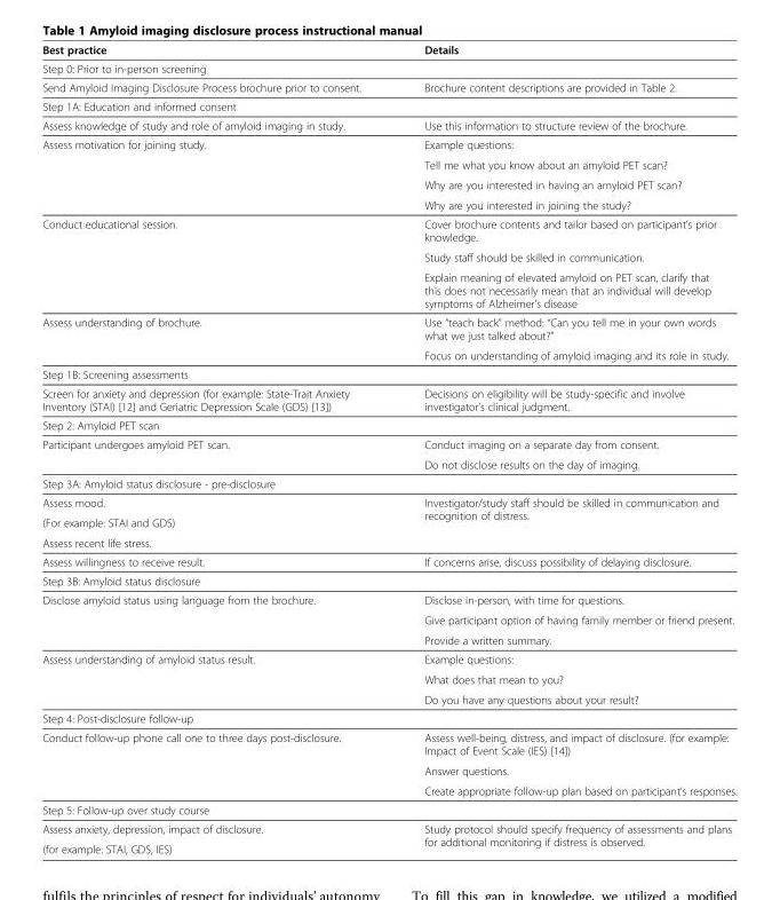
<table><thead><tr><td>Best practice</td><td>Details</td></tr></thead><tbody><tr><td colspan="2">Step 0: Prior to in-person screening</td></tr><tr><td>Send Amyloid Imaging Disclosure Process brochure prior to consent.</td><td>Brochure content descriptions are provided in Table 2.</td></tr><tr><td colspan="2">Step 1A: Education and informed consent</td></tr><tr><td>Assess knowledge of study and role of amyloid imaging in study.</td><td>Use this information to structure review of the brochure.</td></tr><tr><td rowspan="4">Assess motivation for joining study.</td><td>Example questions:</td></tr><tr><td>Tell me what you know about an amyloid PET scan?</td></tr><tr><td>Why are you interested in having an amyloid PET scan?</td></tr><tr><td>Why are you interested in joining the study?</td></tr><tr><td rowspan="3">Conduct educational session.</td><td>Cover brochure contents and tailor based on participant’s prior knowledge.</td></tr><tr><td>Study staff should be skilled in communication.</td></tr><tr><td>Explain meaning of elevated amyloid on PET scan, clarify that this does not necessarily mean that an individual will develop symptoms of Alzheimer’s disease</td></tr><tr><td rowspan="2">Assess understanding of brochure.</td><td>Use “teach back” method: “Can you tell me in your own words what we just talked about?”</td></tr><tr><td>Focus on understanding of amyloid imaging and its role in study.</td></tr><tr><td colspan="2">Step 1B: Screening assessments</td></tr><tr><td>Screen for anxiety and depression (for example: State-Trait Anxiety Inventory (STAI) [12] and Geriatric Depression Scale (GDS) [13])</td><td>Decisions on eligibility will be study-specific and involve investigator’s clinical judgment.</td></tr><tr><td colspan="2">Step 2: Amyloid PET scan</td></tr><tr><td rowspan="2">Participant undergoes amyloid PET scan.</td><td>Conduct imaging on a separate day from consent.</td></tr><tr><td>Do not disclose results on the day of imaging.</td></tr><tr><td colspan="2">Step 3A: Amyloid status disclosure - pre-disclosure</td></tr><tr><td>Assess mood.</td><td rowspan="3">Investigator/study staff should be skilled in communication and recognition of distress.</td></tr><tr><td>(For example: STAI and GDS)</td></tr><tr><td>Assess recent life stress.</td></tr><tr><td>Assess willingness to receive result.</td><td>If concerns arise, discuss possibility of delaying disclosure.</td></tr><tr><td colspan="2">Step 3B: Amyloid status disclosure</td></tr><tr><td rowspan="3">Disclose amyloid status using language from the brochure.</td><td>Disclose in-person, with time for questions.</td></tr><tr><td>Give participant option of having family member or friend present.</td></tr><tr><td>Provide a written summary.</td></tr><tr><td rowspan="3">Assess understanding of amyloid status result.</td><td>Example questions:</td></tr><tr><td>What does that mean to you?</td></tr><tr><td>Do you have any questions about your result?</td></tr><tr><td colspan="2">Step 4: Post-disclosure follow-up</td></tr><tr><td rowspan="3">Conduct follow-up phone call one to three days post-disclosure.</td><td>Assess well-being, distress, and impact of disclosure. (for example: Impact of Event Scale (IES) [14])</td></tr><tr><td>Answer questions.</td></tr><tr><td>Create appropriate follow-up plan based on participant’s responses.</td></tr><tr><td colspan="2">Step 5: Follow-up over study course</td></tr><tr><td>Assess anxiety, depression, impact of disclosure.</td><td rowspan="2">Study protocol should specify frequency of assessments and plans for additional monitoring if distress is observed.</td></tr><tr><td>(for example: STAI, GDS, IES)</td></tr></tbody></table>